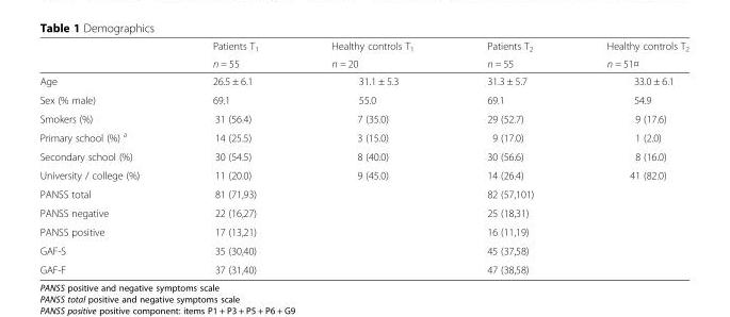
<table><thead><tr><td rowspan="2"></td><td rowspan="2">Patients T<sub>1</sub> n = 55</td><td rowspan="2">Healthy controls T<sub>1</sub> n = 20</td><td rowspan="2">Patients T<sub>2</sub> n = 55</td><td rowspan="2">Healthy controls T<sub>2</sub> n = 51¤</td></tr><tr></tr></thead><tbody><tr><td>Age</td><td>26.5 ± 6.1</td><td>31.1 ± 5.3</td><td>31.3 ± 5.7</td><td>33.0 ± 6.1</td></tr><tr><td>Sex (% male)</td><td>69.1</td><td>55.0</td><td>69.1</td><td>54.9</td></tr><tr><td>Smokers (%)</td><td>31 (56.4)</td><td>7 (35.0)</td><td>29 (52.7)</td><td>9 (17.6)</td></tr><tr><td>Primary school (%) <sup>a</sup></td><td>14 (25.5)</td><td>3 (15.0)</td><td>9 (17.0)</td><td>1 (2.0)</td></tr><tr><td>Secondary school (%)</td><td>30 (54.5)</td><td>8 (40.0)</td><td>30 (56.6)</td><td>8 (16.0)</td></tr><tr><td>University / college (%)</td><td>11 (20.0)</td><td>9 (45.0)</td><td>14 (26.4)</td><td>41 (82.0)</td></tr><tr><td>PANSS total</td><td>81 (71,93)</td><td></td><td>82 (57,101)</td><td></td></tr><tr><td>PANSS negative</td><td>22 (16,27)</td><td></td><td>25 (18,31)</td><td></td></tr><tr><td>PANSS positive</td><td>17 (13,21)</td><td></td><td>16 (11,19)</td><td></td></tr><tr><td>GAF-S</td><td>35 (30,40)</td><td></td><td>45 (37,58)</td><td></td></tr><tr><td>GAF-F</td><td>37 (31,40)</td><td></td><td>47 (38,58)</td><td></td></tr></tbody></table>